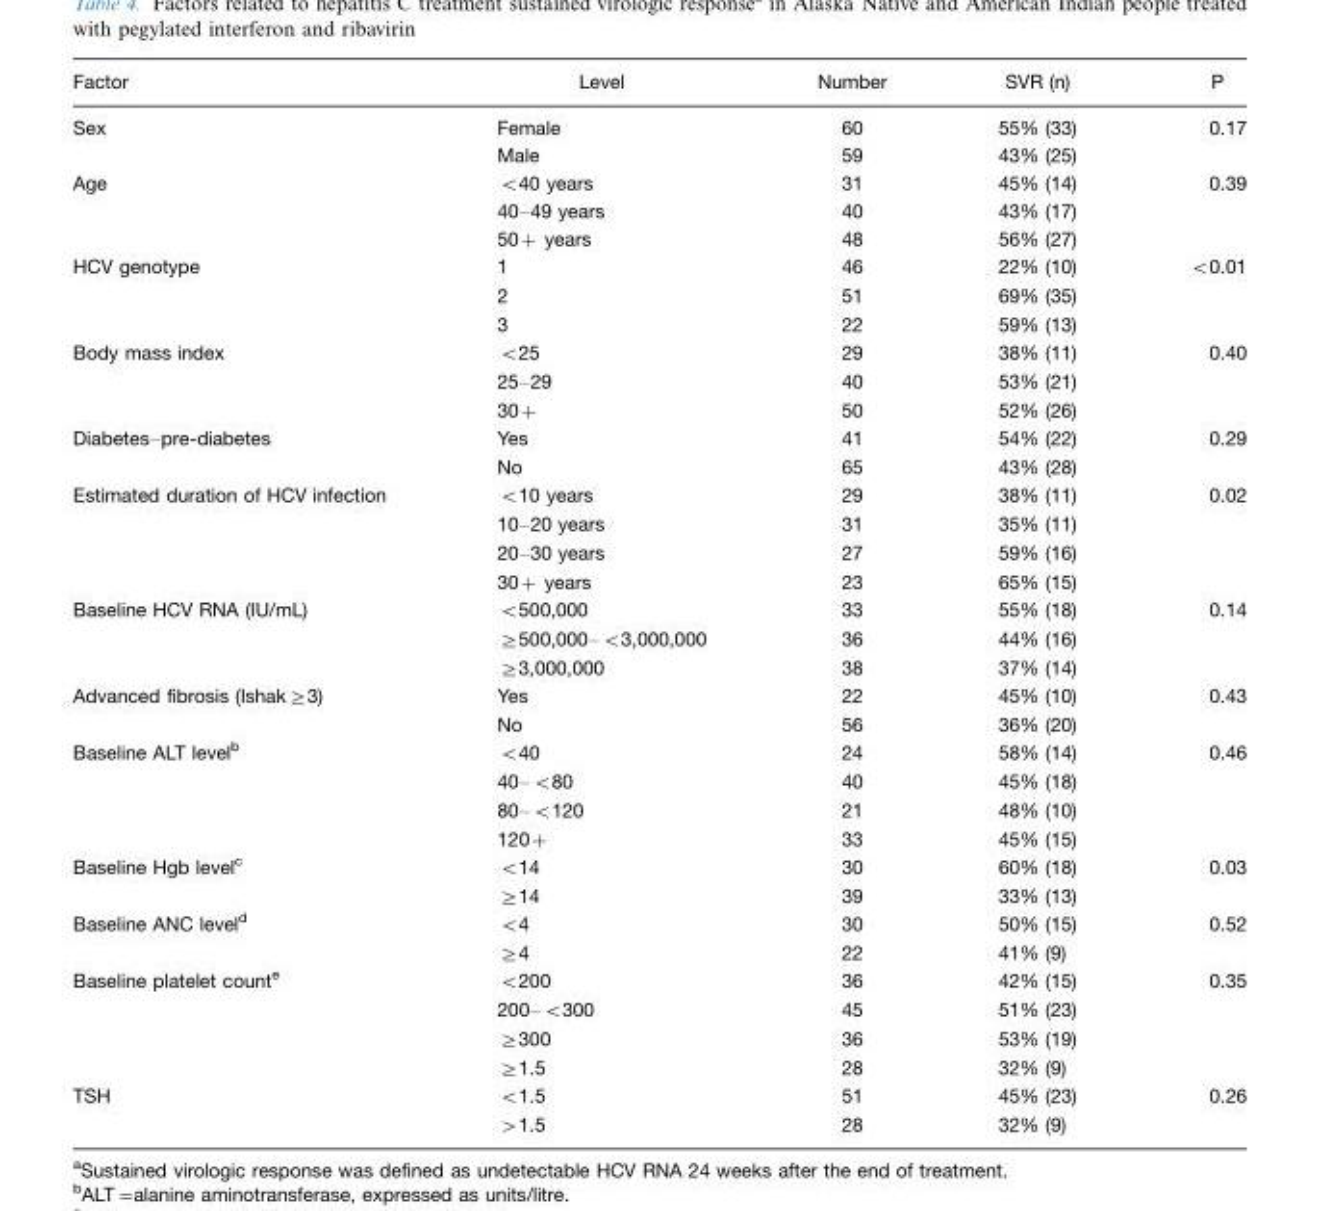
<table><thead><tr><td>Factor</td><td>Level</td><td>Number</td><td>SVR (n)</td><td>P</td></tr></thead><tbody><tr><td rowspan="2">Sex</td><td>Female</td><td>60</td><td>55% (33)</td><td>0.17</td></tr><tr><td>Male</td><td>59</td><td>43% (25)</td><td></td></tr><tr><td rowspan="3">Age</td><td>&lt;40 years</td><td>31</td><td>45% (14)</td><td>0.39</td></tr><tr><td>40–49 years</td><td>40</td><td>43% (17)</td><td></td></tr><tr><td>50+ years</td><td>48</td><td>56% (27)</td><td></td></tr><tr><td rowspan="3">HCV genotype</td><td>1</td><td>46</td><td>22% (10)</td><td>&lt;0.01</td></tr><tr><td>2</td><td>51</td><td>69% (35)</td><td></td></tr><tr><td>3</td><td>22</td><td>59% (13)</td><td></td></tr><tr><td rowspan="3">Body mass index</td><td>&lt;25</td><td>29</td><td>38% (11)</td><td>0.40</td></tr><tr><td>25–29</td><td>40</td><td>53% (21)</td><td></td></tr><tr><td>30+</td><td>50</td><td>52% (26)</td><td></td></tr><tr><td rowspan="2">Diabetes–pre-diabetes</td><td>Yes</td><td>41</td><td>54% (22)</td><td>0.29</td></tr><tr><td>No</td><td>65</td><td>43% (28)</td><td></td></tr><tr><td rowspan="4">Estimated duration of HCV infection</td><td>&lt;10 years</td><td>29</td><td>38% (11)</td><td>0.02</td></tr><tr><td>10–20 years</td><td>31</td><td>35% (11)</td><td></td></tr><tr><td>20–30 years</td><td>27</td><td>59% (16)</td><td></td></tr><tr><td>30+ years</td><td>23</td><td>65% (15)</td><td></td></tr><tr><td rowspan="3">Baseline HCV RNA (IU/mL)</td><td>&lt;500,000</td><td>33</td><td>55% (18)</td><td>0.14</td></tr><tr><td>≥500,000–&lt;3,000,000</td><td>36</td><td>44% (16)</td><td></td></tr><tr><td>≥3,000,000</td><td>38</td><td>37% (14)</td><td></td></tr><tr><td rowspan="2">Advanced fibrosis (Ishak≥3)</td><td>Yes</td><td>22</td><td>45% (10)</td><td>0.43</td></tr><tr><td>No</td><td>56</td><td>36% (20)</td><td></td></tr><tr><td rowspan="4">Baseline ALT level<sup>b</sup></td><td>&lt;40</td><td>24</td><td>58% (14)</td><td>0.46</td></tr><tr><td>40–&lt;80</td><td>40</td><td>45% (18)</td><td></td></tr><tr><td>80–&lt;120</td><td>21</td><td>48% (10)</td><td></td></tr><tr><td>120+</td><td>33</td><td>45% (15)</td><td></td></tr><tr><td rowspan="2">Baseline Hgb level<sup>c</sup></td><td>&lt;14</td><td>30</td><td>60% (18)</td><td>0.03</td></tr><tr><td>≥14</td><td>39</td><td>33% (13)</td><td></td></tr><tr><td rowspan="2">Baseline ANC level<sup>d</sup></td><td>&lt;4</td><td>30</td><td>50% (15)</td><td>0.52</td></tr><tr><td>≥4</td><td>22</td><td>41% (9)</td><td></td></tr><tr><td rowspan="4">Baseline platelet count<sup>e</sup></td><td>&lt;200</td><td>36</td><td>42% (15)</td><td>0.35</td></tr><tr><td>200–&lt;300</td><td>45</td><td>51% (23)</td><td></td></tr><tr><td>≥300</td><td>36</td><td>53% (19)</td><td></td></tr><tr><td>≥1.5</td><td>28</td><td>32% (9)</td><td></td></tr><tr><td rowspan="2">TSH</td><td>&lt;1.5</td><td>51</td><td>45% (23)</td><td>0.26</td></tr><tr><td>&gt;1.5</td><td>28</td><td>32% (9)</td><td></td></tr></tbody></table>